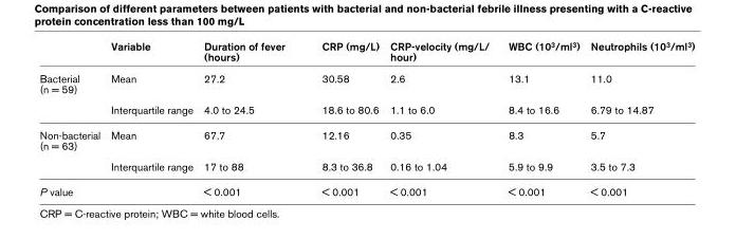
<table><thead><tr><td></td><td>Variable</td><td>Duration of fever (hours)</td><td>CRP (mg/L)</td><td>CRP-velocity (mg/L/ hour)</td><td>WBC (10<sup>3</sup>/ml<sup>3</sup>)</td><td>Neutrophils (10<sup>3</sup>/ml<sup>3</sup>)</td></tr></thead><tbody><tr><td rowspan="2">Bacterial (n = 59)</td><td>Mean</td><td>27.2</td><td>30.58</td><td>2.6</td><td>13.1</td><td>11.0</td></tr><tr><td>Interquartile range</td><td>4.0 to 24.5</td><td>18.6 to 80.6</td><td>1.1 to 6.0</td><td>8.4 to 16.6</td><td>6.79 to 14.87</td></tr><tr><td rowspan="2">Non-bacterial (n = 63)</td><td>Mean</td><td>67.7</td><td>12.16</td><td>0.35</td><td>8.3</td><td>5.7</td></tr><tr><td>Interquartile range</td><td>17 to 88</td><td>8.3 to 36.8</td><td>0.16 to 1.04</td><td>5.9 to 9.9</td><td>3.5 to 7.3</td></tr><tr><td>P value</td><td></td><td>&lt; 0.001</td><td>&lt; 0.001</td><td>&lt; 0.001</td><td>&lt; 0.001</td><td>&lt; 0.001</td></tr></tbody></table>